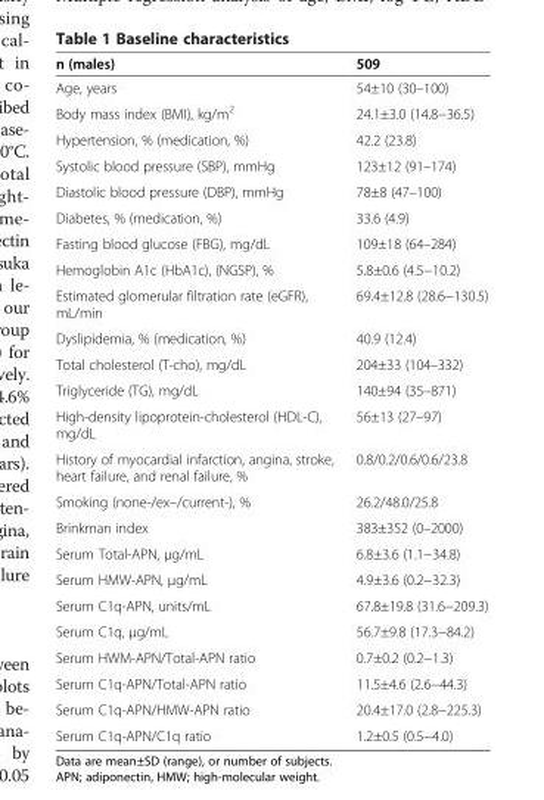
<table><thead><tr><td>n (males)</td><td>509</td></tr></thead><tbody><tr><td>Age, years</td><td>54±10 (30–100)</td></tr><tr><td>Body mass index (BMI), kg/m<sup>2</sup></td><td>24.1±3.0 (14.8−36.5)</td></tr><tr><td>Hypertension, % (medication, %)</td><td>42.2 (23.8)</td></tr><tr><td>Systolic blood pressure (SBP), mmHg</td><td>123±12 (91–174)</td></tr><tr><td>Diastolic blood pressure (DBP), mmHg</td><td>78±8 (47–100)</td></tr><tr><td>Diabetes, % (medication, %)</td><td>33.6 (4.9)</td></tr><tr><td>Fasting blood glucose (FBG), mg/dL</td><td>109±18 (64–284)</td></tr><tr><td>Hemoglobin A1c (HbA1c), (NGSP), %</td><td>5.8±0.6 (4.5−10.2)</td></tr><tr><td>Estimated glomerular filtration rate (eGFR), mL/min</td><td>69.4±12.8 (28.6−130.5)</td></tr><tr><td>Dyslipidemia, % (medication, %)</td><td>40.9 (12.4)</td></tr><tr><td>Total cholesterol (T-cho), mg/dL</td><td>204±33 (104–332)</td></tr><tr><td>Triglyceride (TG), mg/dL</td><td>140±94 (35–871)</td></tr><tr><td>High-density lipoprotein-cholesterol (HDL-C), mg/dL</td><td>56±13 (27–97)</td></tr><tr><td>History of myocardial infarction, angina, stroke, heart failure, and renal failure, %</td><td>0.8/0.2/0.6/0.6/23.8</td></tr><tr><td>Smoking (none-/ex–/current-), %</td><td>26.2/48.0/25.8</td></tr><tr><td>Brinkman index</td><td>383±352 (0–2000)</td></tr><tr><td>Serum Total-APN, μg/mL</td><td>6.8±3.6 (1.1−34.8)</td></tr><tr><td>Serum HMW-APN, μg/mL</td><td>4.9±3.6 (0.2−32.3)</td></tr><tr><td>Serum C1q-APN, units/mL</td><td>67.8±19.8 (31.6−209.3)</td></tr><tr><td>Serum C1q, μg/mL</td><td>56.7±9.8 (17.3−84.2)</td></tr><tr><td>Serum HWM-APN/Total-APN ratio</td><td>0.7±0.2 (0.2−1.3)</td></tr><tr><td>Serum C1q-APN/Total-APN ratio</td><td>11.5±4.6 (2.6−44.3)</td></tr><tr><td>Serum C1q-APN/HMW-APN ratio</td><td>20.4±17.0 (2.8−225.3)</td></tr><tr><td>Serum C1q-APN/C1q ratio</td><td>1.2±0.5 (0.5−4.0)</td></tr></tbody></table>